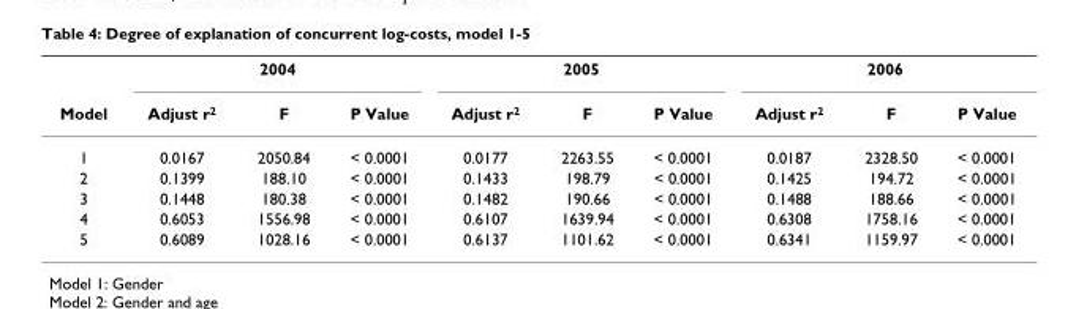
<table><thead><tr><td rowspan="2">Model</td><td colspan="3">2004</td><td colspan="3">2005</td><td colspan="3">2006</td></tr><tr><td>Adjust r<sup>2</sup></td><td>F</td><td>P Value</td><td>Adjust r<sup>2</sup></td><td>F</td><td>P Value</td><td>Adjust r<sup>2</sup></td><td>F</td><td>P Value</td></tr></thead><tbody><tr><td>1</td><td>0.0167</td><td>2050.84</td><td>&lt; 0.0001</td><td>0.0177</td><td>2263.55</td><td>&lt; 0.0001</td><td>0.0187</td><td>2328.50</td><td>&lt; 0.0001</td></tr><tr><td>2</td><td>0.1399</td><td>188.10</td><td>&lt; 0.0001</td><td>0.1433</td><td>198.79</td><td>&lt; 0.0001</td><td>0.1425</td><td>194.72</td><td>&lt; 0.0001</td></tr><tr><td>3</td><td>0.1448</td><td>180.38</td><td>&lt; 0.0001</td><td>0.1482</td><td>190.66</td><td>&lt; 0.0001</td><td>0.1488</td><td>188.66</td><td>&lt; 0.0001</td></tr><tr><td>4</td><td>0.6053</td><td>1556.98</td><td>&lt; 0.0001</td><td>0.6107</td><td>1639.94</td><td>&lt; 0.0001</td><td>0.6308</td><td>1758.16</td><td>&lt; 0.0001</td></tr><tr><td>5</td><td>0.6089</td><td>1028.16</td><td>&lt; 0.0001</td><td>0.6137</td><td>1101.62</td><td>&lt; 0.0001</td><td>0.6341</td><td>1159.97</td><td>&lt; 0.0001</td></tr></tbody></table>